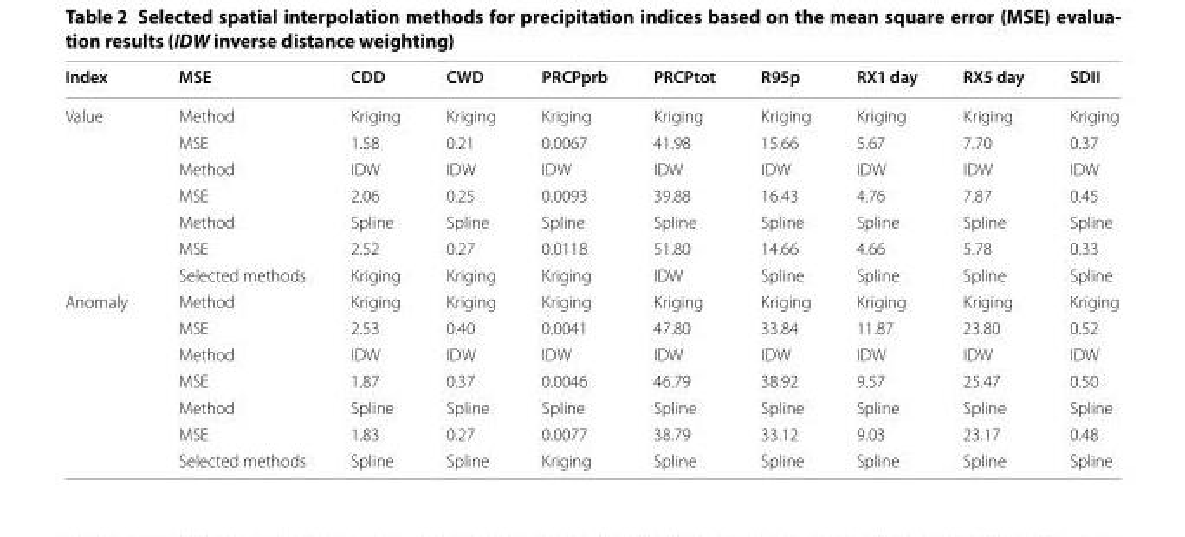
<table><thead><tr><td>Index</td><td>MSE</td><td>CDD</td><td>CWD</td><td>PRCPprb</td><td>PRCPtot</td><td>R95p</td><td>RX1 day</td><td>RX5 day</td><td>SDII</td></tr></thead><tbody><tr><td rowspan="7">Value</td><td>Method</td><td>Kriging</td><td>Kriging</td><td>Kriging</td><td>Kriging</td><td>Kriging</td><td>Kriging</td><td>Kriging</td><td>Kriging</td></tr><tr><td>MSE</td><td>1.58</td><td>0.21</td><td>0.0067</td><td>41.98</td><td>15.66</td><td>5.67</td><td>7.70</td><td>0.37</td></tr><tr><td>Method</td><td>IDW</td><td>IDW</td><td>IDW</td><td>IDW</td><td>IDW</td><td>IDW</td><td>IDW</td><td>IDW</td></tr><tr><td>MSE</td><td>2.06</td><td>0.25</td><td>0.0093</td><td>39.88</td><td>16.43</td><td>4.76</td><td>7.87</td><td>0.45</td></tr><tr><td>Method</td><td>Spline</td><td>Spline</td><td>Spline</td><td>Spline</td><td>Spline</td><td>Spline</td><td>Spline</td><td>Spline</td></tr><tr><td>MSE</td><td>2.52</td><td>0.27</td><td>0.0118</td><td>51.80</td><td>14.66</td><td>4.66</td><td>5.78</td><td>0.33</td></tr><tr><td>Selected methods</td><td>Kriging</td><td>Kriging</td><td>Kriging</td><td>IDW</td><td>Spline</td><td>Spline</td><td>Spline</td><td>Spline</td></tr><tr><td rowspan="7">Anomaly</td><td>Method</td><td>Kriging</td><td>Kriging</td><td>Kriging</td><td>Kriging</td><td>Kriging</td><td>Kriging</td><td>Kriging</td><td>Kriging</td></tr><tr><td>MSE</td><td>2.53</td><td>0.40</td><td>0.0041</td><td>47.80</td><td>33.84</td><td>11.87</td><td>23.80</td><td>0.52</td></tr><tr><td>Method</td><td>IDW</td><td>IDW</td><td>IDW</td><td>IDW</td><td>IDW</td><td>IDW</td><td>IDW</td><td>IDW</td></tr><tr><td>MSE</td><td>1.87</td><td>0.37</td><td>0.0046</td><td>46.79</td><td>38.92</td><td>9.57</td><td>25.47</td><td>0.50</td></tr><tr><td>Method</td><td>Spline</td><td>Spline</td><td>Spline</td><td>Spline</td><td>Spline</td><td>Spline</td><td>Spline</td><td>Spline</td></tr><tr><td>MSE</td><td>1.83</td><td>0.27</td><td>0.0077</td><td>38.79</td><td>33.12</td><td>9.03</td><td>23.17</td><td>0.48</td></tr><tr><td>Selected methods</td><td>Spline</td><td>Spline</td><td>Kriging</td><td>Spline</td><td>Spline</td><td>Spline</td><td>Spline</td><td>Spline</td></tr></tbody></table>